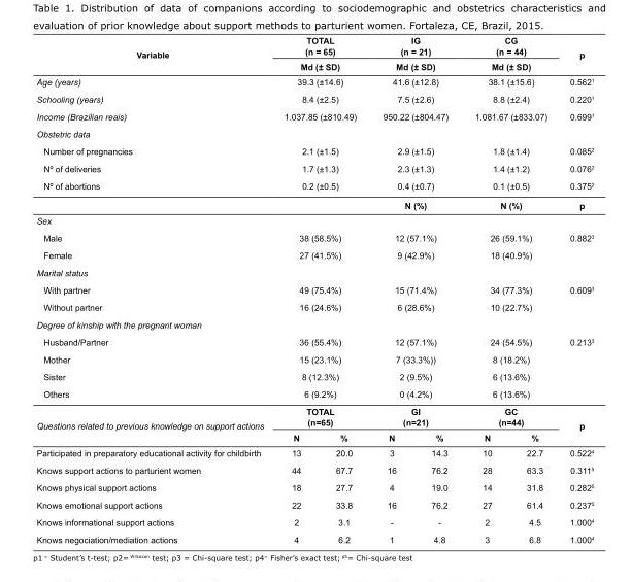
<table><tbody><tr><td rowspan="2">Variable</td><td colspan="2">TOTAL (n = 65)</td><td colspan="2">IG (n = 21)</td><td colspan="2">CG (n = 44)</td><td rowspan="2">p</td></tr><tr><td colspan="2">Md (± SD)</td><td colspan="2">Md (± SD)</td><td colspan="2">Md (± SD)</td></tr><tr><td>Age (years)</td><td colspan="2">39.3 (±14.6)</td><td colspan="2">41.6 (±12.8)</td><td colspan="2">38.1 (±15.6)</td><td>0.562<sup>1</sup></td></tr><tr><td>Schooling (years)</td><td colspan="2">8.4 (±2.5)</td><td colspan="2">7.5 (±2.6)</td><td colspan="2">8.8 (±2.4)</td><td>0.220<sup>1</sup></td></tr><tr><td>Income (Brazilian reais)</td><td colspan="2">1.037.85 (±810.49)</td><td colspan="2">950.22 (±804.47)</td><td colspan="2">1.081.67 (±833.07)</td><td>0.699<sup>1</sup></td></tr><tr><td colspan="8">Obstetric data</td></tr><tr><td>Number of pregnancies</td><td colspan="2">2.1 (±1.5)</td><td colspan="2">2.9 (±1.5)</td><td colspan="2">1.8 (±1.4)</td><td>0.085<sup>2</sup></td></tr><tr><td>Nº of deliveries</td><td colspan="2">1.7 (±1.3)</td><td colspan="2">2.3 (±1.3)</td><td colspan="2">1.4 (±1.2)</td><td>0.076<sup>2</sup></td></tr><tr><td rowspan="2">Nº of abortions</td><td colspan="2">0.2 (±0.5)</td><td colspan="2">0.4 (±0.7)</td><td colspan="2">0.1 (±0.5)</td><td>0.375<sup>2</sup></td></tr><tr><td colspan="2"></td><td colspan="2">N (%)</td><td colspan="2">N (%)</td><td>p</td></tr><tr><td colspan="8">Sex</td></tr><tr><td>Male</td><td colspan="2">38 (58.5%)</td><td colspan="2">12 (57.1%)</td><td colspan="2">26 (59.1%)</td><td>0.882<sup>3</sup></td></tr><tr><td>Female</td><td colspan="2">27 (41.5%)</td><td colspan="2">9 (42.9%)</td><td colspan="2">18 (40.9%)</td><td></td></tr><tr><td colspan="8">Marital status</td></tr><tr><td>With partner</td><td colspan="2">49 (75.4%)</td><td colspan="2">15 (71.4%)</td><td colspan="2">34 (77.3%)</td><td>0.609<sup>3</sup></td></tr><tr><td>Without partner</td><td colspan="2">16 (24.6%)</td><td colspan="2">6 (28.6%)</td><td colspan="2">10 (22.7%)</td><td></td></tr><tr><td colspan="8">Degree of kinship with the pregnant woman</td></tr><tr><td>Husband/Partner</td><td colspan="2">36 (55.4%)</td><td colspan="2">12 (57.1%)</td><td colspan="2">24 (54.5%)</td><td>0.213<sup>3</sup></td></tr><tr><td>Mother</td><td colspan="2">15 (23.1%)</td><td colspan="2">7 (33.3%))</td><td colspan="2">8 (18.2%)</td><td></td></tr><tr><td>Sister</td><td colspan="2">8 (12.3%)</td><td colspan="2">2 (9.5%)</td><td colspan="2">6 (13.6%)</td><td></td></tr><tr><td>Others</td><td colspan="2">6 (9.2%)</td><td colspan="2">0 (4.2%)</td><td colspan="2">6 (13.6%)</td><td></td></tr><tr><td rowspan="2">Questions related to previous knowledge on support actions</td><td colspan="2">TOTAL (n=65)</td><td colspan="2">GI (n=21)</td><td colspan="2">GC (n=44)</td><td rowspan="2">p</td></tr><tr><td>N</td><td>%</td><td>N</td><td>%</td><td>N</td><td>%</td></tr><tr><td>Participated in preparatory educational activity for childbirth</td><td>13</td><td>20.0</td><td>3</td><td>14.3</td><td>10</td><td>22.7</td><td>0.522<sup>4</sup></td></tr><tr><td>Knows support actions to parturient women</td><td>44</td><td>67.7</td><td>16</td><td>76.2</td><td>28</td><td>63.3</td><td>0.311<sup>5</sup></td></tr><tr><td>Knows physical support actions</td><td>18</td><td>27.7</td><td>4</td><td>19.0</td><td>14</td><td>31.8</td><td>0.282<sup>5</sup></td></tr><tr><td>Knows emotional support actions</td><td>22</td><td>33.8</td><td>16</td><td>76.2</td><td>27</td><td>61.4</td><td>0.237<sup>5</sup></td></tr><tr><td>Knows informational support actions</td><td>2</td><td>3.1</td><td>-</td><td>-</td><td>2</td><td>4.5</td><td>1.000<sup>4</sup></td></tr><tr><td>Knows negociation/mediation actions</td><td>4</td><td>6.2</td><td>1</td><td>4.8</td><td>3</td><td>6.8</td><td>1.000<sup>4</sup></td></tr></tbody></table>